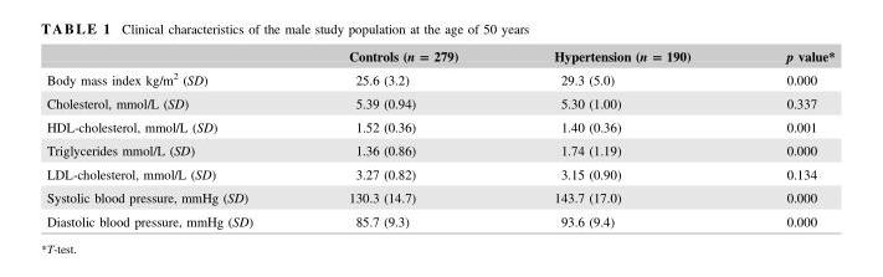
<table><thead><tr><td></td><td>Controls (n = 279)</td><td>Hypertension (n = 190)</td><td>p value*</td></tr></thead><tbody><tr><td>Body mass index kg/m<sup>2</sup> (SD)</td><td>25.6 (3.2)</td><td>29.3 (5.0)</td><td>0.000</td></tr><tr><td>Cholesterol, mmol/L (SD)</td><td>5.39 (0.94)</td><td>5.30 (1.00)</td><td>0.337</td></tr><tr><td>HDL‐cholesterol, mmol/L (SD)</td><td>1.52 (0.36)</td><td>1.40 (0.36)</td><td>0.001</td></tr><tr><td>Triglycerides mmol/L (SD)</td><td>1.36 (0.86)</td><td>1.74 (1.19)</td><td>0.000</td></tr><tr><td>LDL‐cholesterol, mmol/L (SD)</td><td>3.27 (0.82)</td><td>3.15 (0.90)</td><td>0.134</td></tr><tr><td>Systolic blood pressure, mmHg (SD)</td><td>130.3 (14.7)</td><td>143.7 (17.0)</td><td>0.000</td></tr><tr><td>Diastolic blood pressure, mmHg (SD)</td><td>85.7 (9.3)</td><td>93.6 (9.4)</td><td>0.000</td></tr></tbody></table>